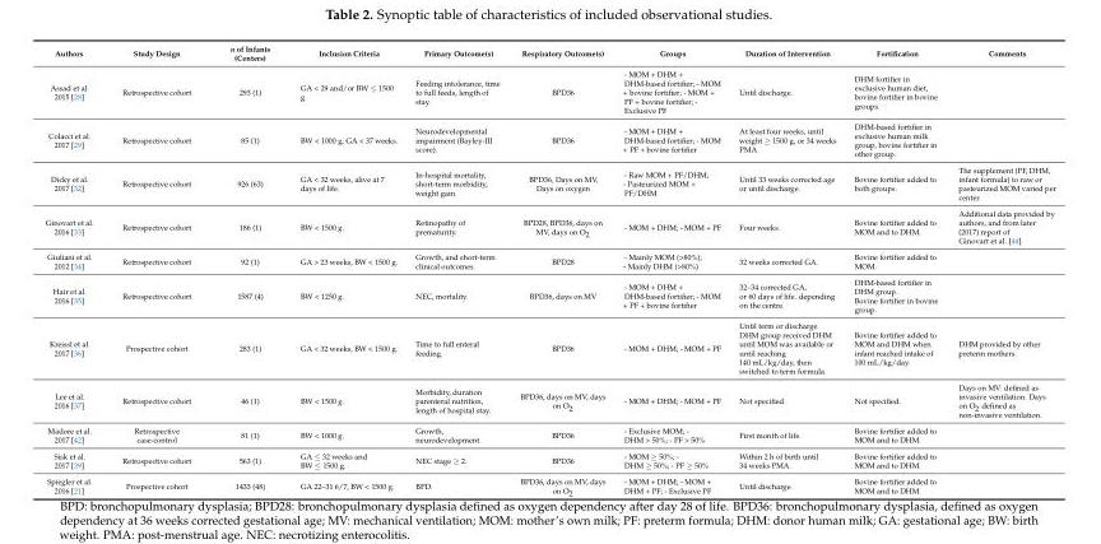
<table><thead><tr><td>Authors</td><td>Study Design</td><td>n of Infants (Centers)</td><td>Inclusion Criteria</td><td>Primary Outcome(s)</td><td>Respiratory Outcome(s)</td><td>Groups</td><td>Duration of Intervention</td><td>Fortification</td><td>Comments</td></tr></thead><tbody><tr><td>Assad et al. 2015 [28]</td><td>Retrospective cohort</td><td>293 (1)</td><td>GA &lt; 29 and/or BW ≤ 1500 g.</td><td>Feeding intolerance, time to full feeds, length of stay.</td><td>BPD36</td><td>- MOM + DHM + DHM-based fortifier; - MOM + bovine fortifier; - MOM + PF + bovine fortifier; - Exclusive PF</td><td>Until discharge.</td><td>DHM fortifier in exclusive human diet, bovine fortifier in bovine groups.</td><td></td></tr><tr><td>Colacci et al. 2017 [29]</td><td>Retrospective cohort</td><td>85 (1)</td><td>BW &lt; 1000 g, GA &lt; 37 weeks.</td><td>Neurodevelopmental impairment (Bayley-III score).</td><td>BPD36</td><td>- MOM + DHM + DHM-based fortifier; - MOM + PF + bovine fortifier</td><td>At least four weeks, until weight ≥ 1500 g, or 34 weeks PMA.</td><td>DHM-based fortifier in exclusive human milk group, bovine fortifier in other group.</td><td></td></tr><tr><td>Dicky et al. 2017 [32]</td><td>Retrospective cohort</td><td>926 (63)</td><td>GA &lt; 32 weeks, alive at 7 days of life.</td><td>In-hospital mortality, short-term morbidity, weight gain.</td><td>BPD36, Days on MV, Days on oxygen</td><td>- Raw MOM + PF/DHM; - Pasteurized MOM + PF/DHM</td><td>Until 33 weeks corrected age or until discharge.</td><td>Bovine fortifier added to both groups.</td><td>The supplement (PF, DHM, infant formula) to raw or pasteurized MOM varied per center.</td></tr><tr><td>Ginovart et al. 2016 [33]</td><td>Retrospective cohort</td><td>186 (1)</td><td>BW &lt; 1500 g.</td><td>Retinopathy of prematurity.</td><td>BPD28, BPD36, days on MV, days on O<sub>2</sub></td><td>- MOM + DHM; - MOM + PF</td><td>Four weeks.</td><td>Bovine fortifier added to MOM and to DHM.</td><td>Additional data provided by authors, and from later (2017) report of Ginovart et al. [44].</td></tr><tr><td>Giuliani et al. 2012 [34]</td><td>Retrospective cohort</td><td>92 (1)</td><td>GA &gt; 23 weeks, BW &lt; 1500 g.</td><td>Growth, and short-term clinical outcomes.</td><td>BPD28</td><td>- Mainly MOM (&gt;80%); - Mainly DHM (&gt;80%)</td><td>32 weeks corrected GA.</td><td>Bovine fortifier added to MOM.</td><td></td></tr><tr><td>Hair et al. 2016 [35]</td><td>Retrospective cohort</td><td>1587 (4)</td><td>BW &lt; 1250 g.</td><td>NEC, mortality.</td><td>BPD36, days on MV</td><td>- MOM + DHM + DHM-based fortifier; - MOM + PF + bovine fortifier</td><td>32–34 corrected GA, or 60 days of life. depending on the centre.</td><td>DHM-based fortifier in DHM group. Bovine fortifier in bovine group.</td><td></td></tr><tr><td>Kreissl et al. 2017 [36]</td><td>Prospective cohort</td><td>283 (1)</td><td>GA &lt; 32 weeks, BW &lt; 1500 g.</td><td>Time to full enteral feeding.</td><td>BPD36</td><td>- MOM + DHM; - MOM + PF</td><td>Until term or discharge. DHM group received DHM until MOM was available or until reaching 140 mL/kg/day, then switched to term formula.</td><td>Bovine fortifier added to MOM and DHM when infant reached intake of 100 mL/kg/day.</td><td>DHM provided by other preterm mothers.</td></tr><tr><td>Lee et al. 2016 [37]</td><td>Retrospective cohort</td><td>46 (1)</td><td>BW &lt; 1500 g.</td><td>Morbidity, duration parenteral nutrition, length of hospital stay.</td><td>BPD36, days on MV, days on O<sub>2</sub></td><td>- MOM + DHM; - MOM + PF</td><td>Not specified.</td><td>Not specified.</td><td>Days on MV: defined as invasive ventilation. Days on O<sub>2</sub> defined as non-invasive ventilation.</td></tr><tr><td>Madore et al. 2017 [42]</td><td>Retrospective case-control</td><td>81 (1)</td><td>BW &lt; 1000 g.</td><td>Growth, neurodevelopment.</td><td>BPD36</td><td>- Exclusive MOM; - DHM &gt; 50%; - PF &gt; 50%</td><td>First month of life.</td><td>Bovine fortifier added to MOM and to DHM.</td><td></td></tr><tr><td>Sisk et al. 2017 [39]</td><td>Retrospective cohort</td><td>563 (1)</td><td>GA ≤ 32 weeks and BW ≤ 1500 g.</td><td>NEC stage ≥ 2.</td><td>BPD36</td><td>- MOM ≥ 50%; - DHM ≥ 50%; - PF ≥ 50%</td><td>Within 2 h of birth until 34 weeks PMA.</td><td>Bovine fortifier added to MOM and to DHM.</td><td></td></tr><tr><td>Spiegler et al. 2016 [21]</td><td>Prospective cohort</td><td>1433 (48)</td><td>GA 22–31 6/7, BW &lt; 1500 g.</td><td>BPD.</td><td>BPD36, days on MV, days on O<sub>2</sub></td><td>- MOM + DHM; - MOM + DHM + PF; - Exclusive PF</td><td>Until discharge.</td><td>Bovine fortifier added to MOM and to DHM.</td><td></td></tr></tbody></table>